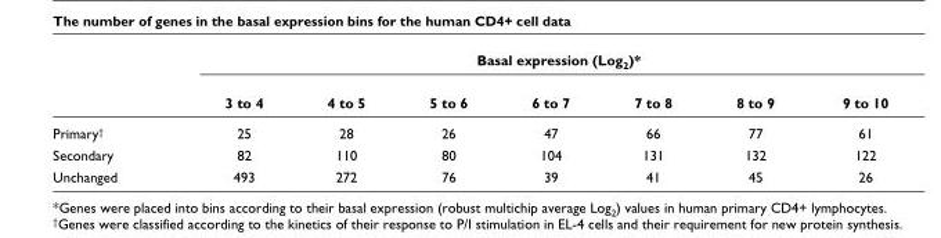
<table><thead><tr><td rowspan="2"></td><td colspan="7">Basal expression (Log<sub>2</sub>)*</td></tr><tr><td>3 to 4</td><td>4 to 5</td><td>5 to 6</td><td>6 to 7</td><td>7 to 8</td><td>8 to 9</td><td>9 to 10</td></tr></thead><tbody><tr><td>Primary<sup>†</sup></td><td>25</td><td>28</td><td>26</td><td>47</td><td>66</td><td>77</td><td>61</td></tr><tr><td>Secondary</td><td>82</td><td>110</td><td>80</td><td>104</td><td>131</td><td>132</td><td>122</td></tr><tr><td>Unchanged</td><td>493</td><td>272</td><td>76</td><td>39</td><td>41</td><td>45</td><td>26</td></tr></tbody></table>